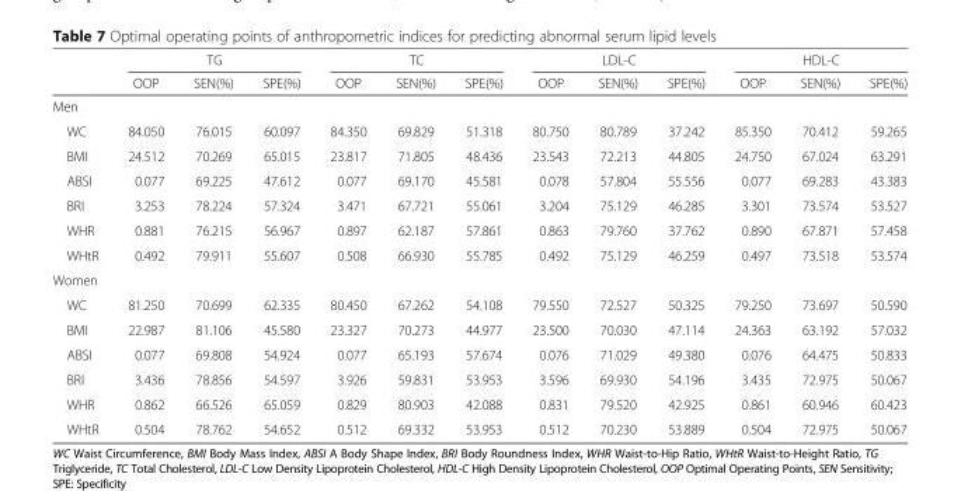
<table><thead><tr><td rowspan="2"></td><td colspan="3">TG</td><td colspan="3">TC</td><td colspan="3">LDL-C</td><td colspan="3">HDL-C</td></tr><tr><td>OOP</td><td>SEN(%)</td><td>SPE(%)</td><td>OOP</td><td>SEN(%)</td><td>SPE(%)</td><td>OOP</td><td>SEN(%)</td><td>SPE(%)</td><td>OOP</td><td>SEN(%)</td><td>SPE(%)</td></tr></thead><tbody><tr><td colspan="13">Men</td></tr><tr><td>WC</td><td>84.050</td><td>76.015</td><td>60.097</td><td>84.350</td><td>69.829</td><td>51.318</td><td>80.750</td><td>80.789</td><td>37.242</td><td>85.350</td><td>70.412</td><td>59.265</td></tr><tr><td>BMI</td><td>24.512</td><td>70.269</td><td>65.015</td><td>23.817</td><td>71.805</td><td>48.436</td><td>23.543</td><td>72.213</td><td>44.805</td><td>24.750</td><td>67.024</td><td>63.291</td></tr><tr><td>ABSI</td><td>0.077</td><td>69.225</td><td>47.612</td><td>0.077</td><td>69.170</td><td>45.581</td><td>0.078</td><td>57.804</td><td>55.556</td><td>0.077</td><td>69.283</td><td>43.383</td></tr><tr><td>BRI</td><td>3.253</td><td>78.224</td><td>57.324</td><td>3.471</td><td>67.721</td><td>55.061</td><td>3.204</td><td>75.129</td><td>46.285</td><td>3.301</td><td>73.574</td><td>53.527</td></tr><tr><td>WHR</td><td>0.881</td><td>76.215</td><td>56.967</td><td>0.897</td><td>62.187</td><td>57.861</td><td>0.863</td><td>79.760</td><td>37.762</td><td>0.890</td><td>67.871</td><td>57.458</td></tr><tr><td>WHtR</td><td>0.492</td><td>79.911</td><td>55.607</td><td>0.508</td><td>66.930</td><td>55.785</td><td>0.492</td><td>75.129</td><td>46.259</td><td>0.497</td><td>73.518</td><td>53.574</td></tr><tr><td colspan="13">Women</td></tr><tr><td>WC</td><td>81.250</td><td>70.699</td><td>62.335</td><td>80.450</td><td>67.262</td><td>54.108</td><td>79.550</td><td>72.527</td><td>50.325</td><td>79.250</td><td>73.697</td><td>50.590</td></tr><tr><td>BMI</td><td>22.987</td><td>81.106</td><td>45.580</td><td>23.327</td><td>70.273</td><td>44.977</td><td>23.500</td><td>70.030</td><td>47.114</td><td>24.363</td><td>63.192</td><td>57.032</td></tr><tr><td>ABSI</td><td>0.077</td><td>69.808</td><td>54.924</td><td>0.077</td><td>65.193</td><td>57.674</td><td>0.076</td><td>71.029</td><td>49.380</td><td>0.076</td><td>64.475</td><td>50.833</td></tr><tr><td>BRI</td><td>3.436</td><td>78.856</td><td>54.597</td><td>3.926</td><td>59.831</td><td>53.953</td><td>3.596</td><td>69.930</td><td>54.196</td><td>3.435</td><td>72.975</td><td>50.067</td></tr><tr><td>WHR</td><td>0.862</td><td>66.526</td><td>65.059</td><td>0.829</td><td>80.903</td><td>42.088</td><td>0.831</td><td>79.520</td><td>42.925</td><td>0.861</td><td>60.946</td><td>60.423</td></tr><tr><td>WHtR</td><td>0.504</td><td>78.762</td><td>54.652</td><td>0.512</td><td>69.332</td><td>53.953</td><td>0.512</td><td>70.230</td><td>53.889</td><td>0.504</td><td>72.975</td><td>50.067</td></tr></tbody></table>